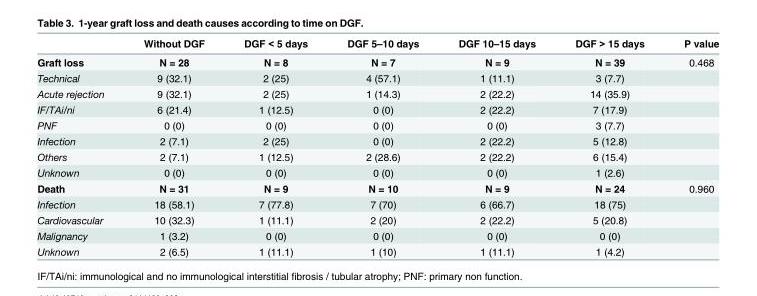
<table><thead><tr><td></td><td>Without DGF</td><td>DGF &lt; 5 days</td><td>DGF 5–10 days</td><td>DGF 10–15 days</td><td>DGF &gt; 15 days</td><td>P value</td></tr></thead><tbody><tr><td>Graft loss</td><td>N = 28</td><td>N = 8</td><td>N = 7</td><td>N = 9</td><td>N = 39</td><td>0.468</td></tr><tr><td>Technical</td><td>9 (32.1)</td><td>2 (25)</td><td>4 (57.1)</td><td>1 (11.1)</td><td>3 (7.7)</td><td></td></tr><tr><td>Acute rejection</td><td>9 (32.1)</td><td>2 (25)</td><td>1 (14.3)</td><td>2 (22.2)</td><td>14 (35.9)</td><td></td></tr><tr><td>IF/TAi/ni</td><td>6 (21.4)</td><td>1 (12.5)</td><td>0 (0)</td><td>2 (22.2)</td><td>7 (17.9)</td><td></td></tr><tr><td>PNF</td><td>0 (0)</td><td>0 (0)</td><td>0 (0)</td><td>0 (0)</td><td>3 (7.7)</td><td></td></tr><tr><td>Infection</td><td>2 (7.1)</td><td>2 (25)</td><td>0 (0)</td><td>2 (22.2)</td><td>5 (12.8)</td><td></td></tr><tr><td>Others</td><td>2 (7.1)</td><td>1 (12.5)</td><td>2 (28.6)</td><td>2 (22.2)</td><td>6 (15.4)</td><td></td></tr><tr><td>Unknown</td><td>0 (0)</td><td>0 (0)</td><td>0 (0)</td><td>0 (0)</td><td>1 (2.6)</td><td></td></tr><tr><td>Death</td><td>N = 31</td><td>N = 9</td><td>N = 10</td><td>N = 9</td><td>N = 24</td><td>0.960</td></tr><tr><td>Infection</td><td>18 (58.1)</td><td>7 (77.8)</td><td>7 (70)</td><td>6 (66.7)</td><td>18 (75)</td><td></td></tr><tr><td>Cardiovascular</td><td>10 (32.3)</td><td>1 (11.1)</td><td>2 (20)</td><td>2 (22.2)</td><td>5 (20.8)</td><td></td></tr><tr><td>Malignancy</td><td>1 (3.2)</td><td>0 (0)</td><td>0 (0)</td><td>0 (0)</td><td>0 (0)</td><td></td></tr><tr><td>Unknown</td><td>2 (6.5)</td><td>1 (11.1)</td><td>1 (10)</td><td>1 (11.1)</td><td>1 (4.2)</td><td></td></tr></tbody></table>